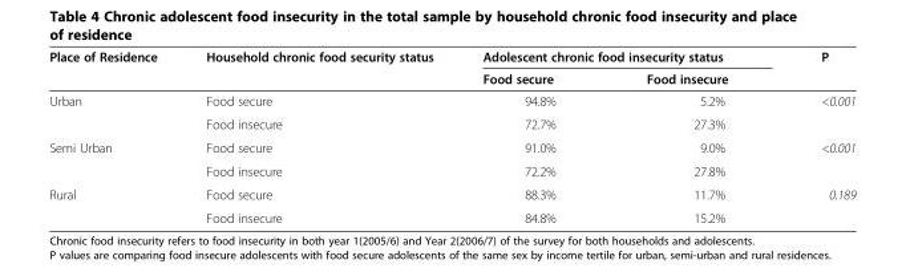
<table><thead><tr><td rowspan="2">Place of Residence</td><td rowspan="2">Household chronic food security status</td><td colspan="2">Adolescent chronic food insecurity status</td><td rowspan="2">P</td></tr><tr><td>Food secure</td><td>Food insecure</td></tr></thead><tbody><tr><td rowspan="2">Urban</td><td>Food secure</td><td>94.8%</td><td>5.2%</td><td>&lt;0.001</td></tr><tr><td>Food insecure</td><td>72.7%</td><td>27.3%</td><td></td></tr><tr><td rowspan="2">Semi Urban</td><td>Food secure</td><td>91.0%</td><td>9.0%</td><td>&lt;0.001</td></tr><tr><td>Food insecure</td><td>72.2%</td><td>27.8%</td><td></td></tr><tr><td rowspan="2">Rural</td><td>Food secure</td><td>88.3%</td><td>11.7%</td><td>0.189</td></tr><tr><td>Food insecure</td><td>84.8%</td><td>15.2%</td><td></td></tr></tbody></table>